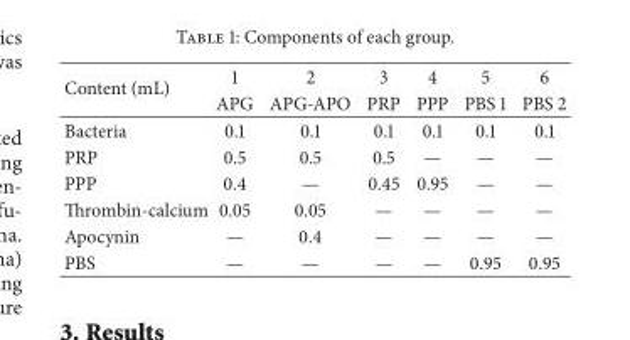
<table><thead><tr><td rowspan="2">Content (mL)</td><td rowspan="2">1 APG</td><td rowspan="2">2 APG-APO</td><td rowspan="2">3 PRP</td><td rowspan="2">4 PPP</td><td rowspan="2">5 PBS 1</td><td rowspan="2">6 PBS 2</td></tr><tr></tr></thead><tbody><tr><td>Bacteria</td><td>0.1</td><td>0.1</td><td>0.1</td><td>0.1</td><td>0.1</td><td>0.1</td></tr><tr><td>PRP</td><td>0.5</td><td>0.5</td><td>0.5</td><td>—</td><td>—</td><td>—</td></tr><tr><td>PPP</td><td>0.4</td><td>—</td><td>0.45</td><td>0.95</td><td>—</td><td>—</td></tr><tr><td>Thrombin-calcium</td><td>0.05</td><td>0.05</td><td>—</td><td>—</td><td>—</td><td>—</td></tr><tr><td>Apocynin</td><td>—</td><td>0.4</td><td>—</td><td>—</td><td>—</td><td>—</td></tr><tr><td>PBS</td><td>—</td><td>—</td><td>—</td><td>—</td><td>0.95</td><td>0.95</td></tr></tbody></table>